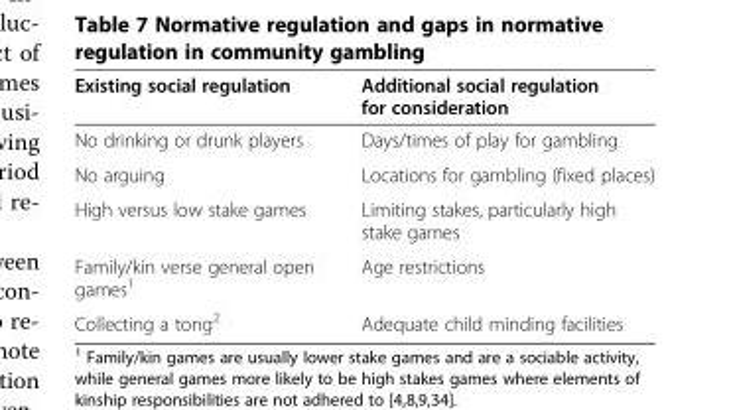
<table><thead><tr><td>Existing social regulation</td><td>Additional social regulation for consideration</td></tr></thead><tbody><tr><td>No drinking or drunk players</td><td>Days/times of play for gambling</td></tr><tr><td>No arguing</td><td>Locations for gambling (fixed places)</td></tr><tr><td>High versus low stake games</td><td>Limiting stakes, particularly high stake games</td></tr><tr><td>Family/kin verse general open games<sup>1</sup></td><td>Age restrictions</td></tr><tr><td>Collecting a tong<sup>2</sup></td><td>Adequate child minding facilities</td></tr></tbody></table>